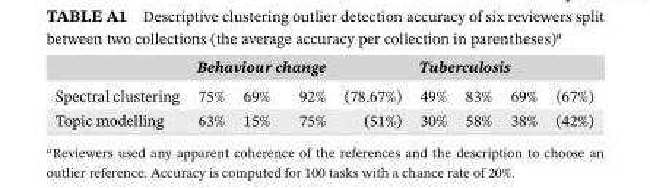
<table><thead><tr><td rowspan="2">Spectral clustering</td><td colspan="3">Behaviour change</td><td rowspan="2">(78.67%)</td><td colspan="3">Tuberculosis</td><td rowspan="2">(67%)</td></tr><tr><td>75%</td><td>69%</td><td>92%</td><td>49%</td><td>83%</td><td>69%</td></tr></thead><tbody><tr><td>Topic modelling</td><td>63%</td><td>15%</td><td>75%</td><td>(51%)</td><td>30%</td><td>58%</td><td>38%</td><td>(42%)</td></tr></tbody></table>